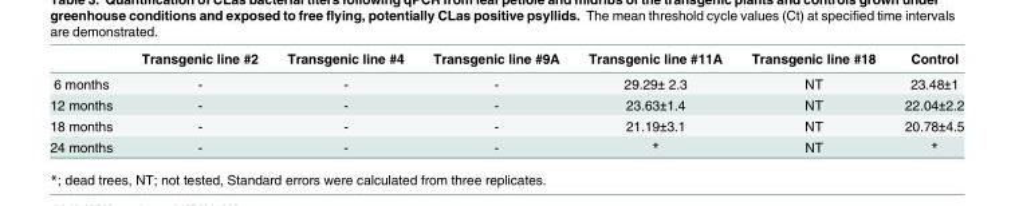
<table><thead><tr><td></td><td>Transgenic line #2</td><td>Transgenic line #4</td><td>Transgenic line #9A</td><td>Transgenic line #11A</td><td>Transgenic line #18</td><td>Control</td></tr></thead><tbody><tr><td>6 months</td><td>-</td><td>-</td><td>-</td><td>29.29± 2.3</td><td>NT</td><td>23.48±1</td></tr><tr><td>12 months</td><td>-</td><td>-</td><td>-</td><td>23.63±1.4</td><td>NT</td><td>22.04±2.2</td></tr><tr><td>18 months</td><td>-</td><td>-</td><td>-</td><td>21.19±3.1</td><td>NT</td><td>20.78±4.5</td></tr><tr><td>24 months</td><td>-</td><td>-</td><td>-</td><td>*</td><td>NT</td><td>*</td></tr></tbody></table>